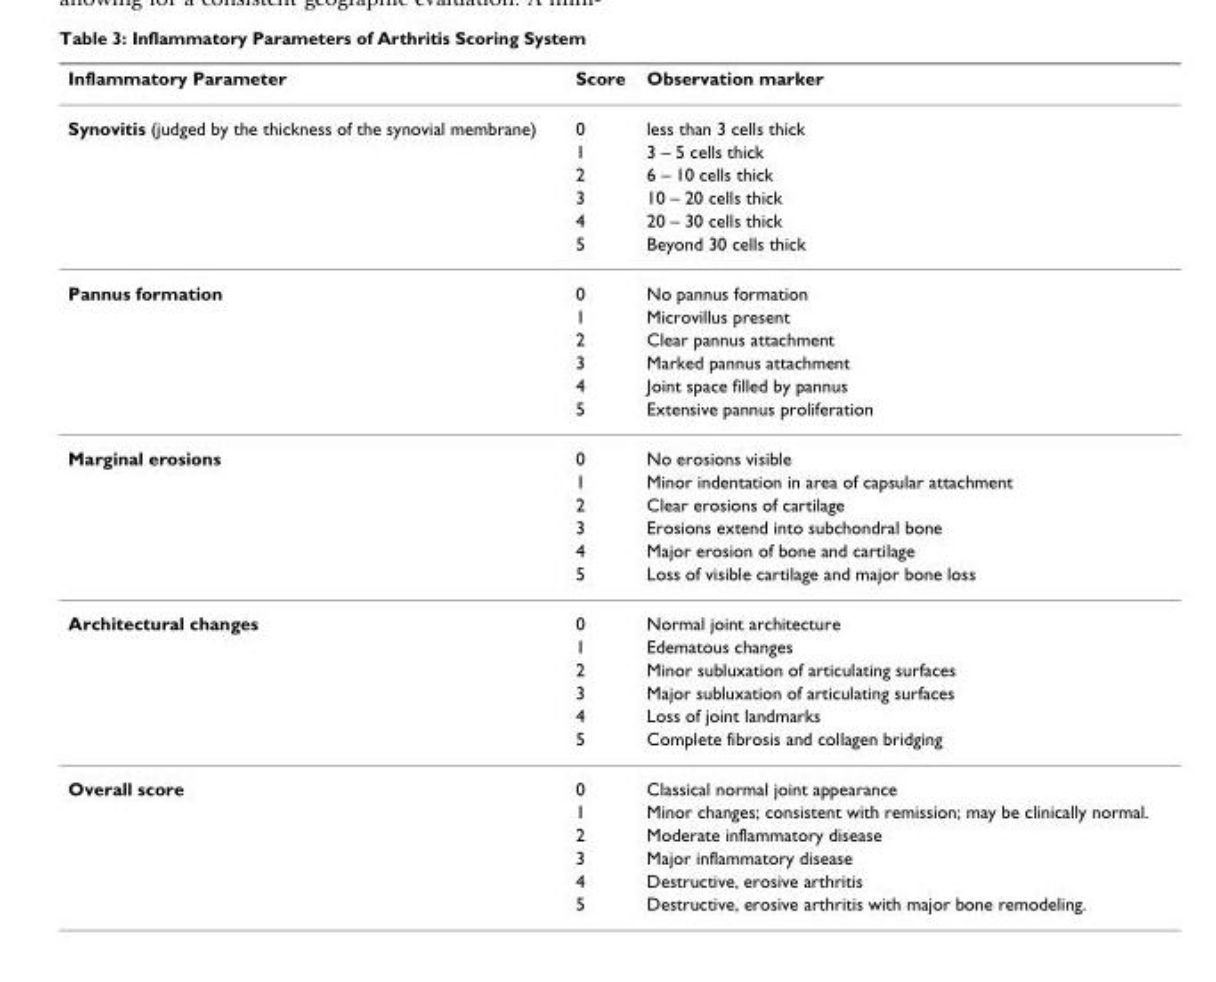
<table><thead><tr><td>Inflammatory Parameter</td><td>Score</td><td>Observation marker</td></tr></thead><tbody><tr><td rowspan="6">Synovitis (judged by the thickness of the synovial membrane)</td><td>0</td><td>less than 3 cells thick</td></tr><tr><td>1</td><td>3 – 5 cells thick</td></tr><tr><td>2</td><td>6 – 10 cells thick</td></tr><tr><td>3</td><td>10 – 20 cells thick</td></tr><tr><td>4</td><td>20 – 30 cells thick</td></tr><tr><td>5</td><td>Beyond 30 cells thick</td></tr><tr><td rowspan="6">Pannus formation</td><td>0</td><td>No pannus formation</td></tr><tr><td>1</td><td>Microvillus present</td></tr><tr><td>2</td><td>Clear pannus attachment</td></tr><tr><td>3</td><td>Marked pannus attachment</td></tr><tr><td>4</td><td>Joint space filled by pannus</td></tr><tr><td>5</td><td>Extensive pannus proliferation</td></tr><tr><td rowspan="6">Marginal erosions</td><td>0</td><td>No erosions visible</td></tr><tr><td>1</td><td>Minor indentation in area of capsular attachment</td></tr><tr><td>2</td><td>Clear erosions of cartilage</td></tr><tr><td>3</td><td>Erosions extend into subchondral bone</td></tr><tr><td>4</td><td>Major erosion of bone and cartilage</td></tr><tr><td>5</td><td>Loss of visible cartilage and major bone loss</td></tr><tr><td rowspan="6">Architectural changes</td><td>0</td><td>Normal joint architecture</td></tr><tr><td>1</td><td>Edematous changes</td></tr><tr><td>2</td><td>Minor subluxation of articulating surfaces</td></tr><tr><td>3</td><td>Major subluxation of articulating surfaces</td></tr><tr><td>4</td><td>Loss of joint landmarks</td></tr><tr><td>5</td><td>Complete fibrosis and collagen bridging</td></tr><tr><td rowspan="6">Overall score</td><td>0</td><td>Classical normal joint appearance</td></tr><tr><td>1</td><td>Minor changes; consistent with remission; may be clinically normal.</td></tr><tr><td>2</td><td>Moderate inflammatory disease</td></tr><tr><td>3</td><td>Major inflammatory disease</td></tr><tr><td>4</td><td>Destructive, erosive arthritis</td></tr><tr><td>5</td><td>Destructive, erosive arthritis with major bone remodeling.</td></tr></tbody></table>